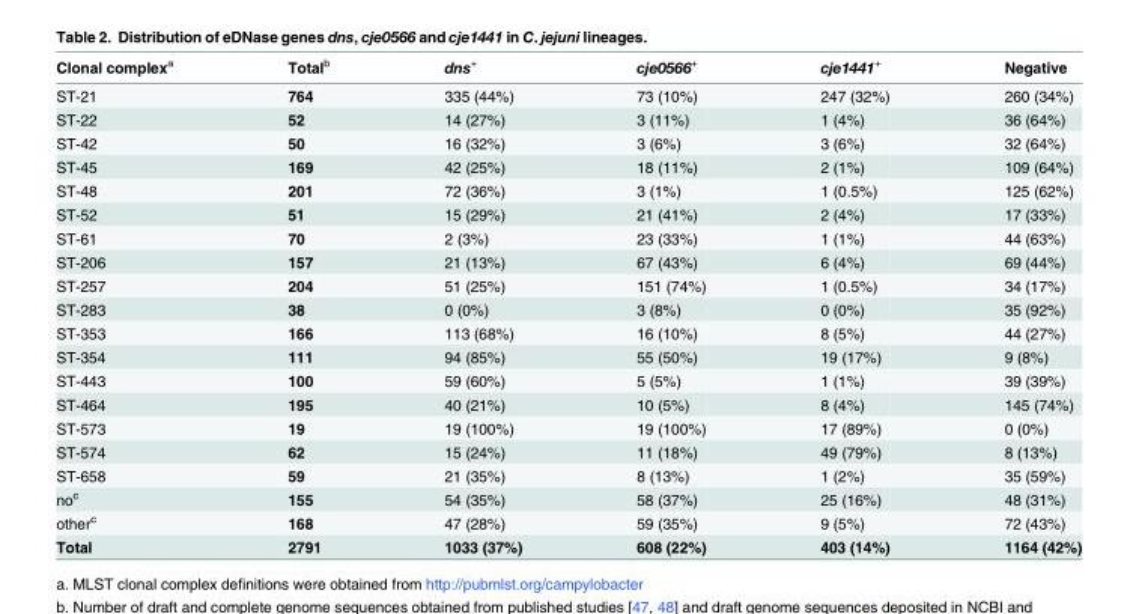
<table><thead><tr><td>Clonal complex<sup>a</sup></td><td>Total<sup>b</sup></td><td>dns<sup>+</sup></td><td>cje0566<sup>+</sup></td><td>cje1441<sup>+</sup></td><td>Negative</td></tr></thead><tbody><tr><td>ST-21</td><td>764</td><td>335 (44%)</td><td>73 (10%)</td><td>247 (32%)</td><td>260 (34%)</td></tr><tr><td>ST-22</td><td>52</td><td>14 (27%)</td><td>3 (11%)</td><td>1 (4%)</td><td>36 (64%)</td></tr><tr><td>ST-42</td><td>50</td><td>16 (32%)</td><td>3 (6%)</td><td>3 (6%)</td><td>32 (64%)</td></tr><tr><td>ST-45</td><td>169</td><td>42 (25%)</td><td>18 (11%)</td><td>2 (1%)</td><td>109 (64%)</td></tr><tr><td>ST-48</td><td>201</td><td>72 (36%)</td><td>3 (1%)</td><td>1 (0.5%)</td><td>125 (62%)</td></tr><tr><td>ST-52</td><td>51</td><td>15 (29%)</td><td>21 (41%)</td><td>2 (4%)</td><td>17 (33%)</td></tr><tr><td>ST-61</td><td>70</td><td>2 (3%)</td><td>23 (33%)</td><td>1 (1%)</td><td>44 (63%)</td></tr><tr><td>ST-206</td><td>157</td><td>21 (13%)</td><td>67 (43%)</td><td>6 (4%)</td><td>69 (44%)</td></tr><tr><td>ST-257</td><td>204</td><td>51 (25%)</td><td>151 (74%)</td><td>1 (0.5%)</td><td>34 (17%)</td></tr><tr><td>ST-283</td><td>38</td><td>0 (0%)</td><td>3 (8%)</td><td>0 (0%)</td><td>35 (92%)</td></tr><tr><td>ST-353</td><td>166</td><td>113 (68%)</td><td>16 (10%)</td><td>8 (5%)</td><td>44 (27%)</td></tr><tr><td>ST-354</td><td>111</td><td>94 (85%)</td><td>55 (50%)</td><td>19 (17%)</td><td>9 (8%)</td></tr><tr><td>ST-443</td><td>100</td><td>59 (60%)</td><td>5 (5%)</td><td>1 (1%)</td><td>39 (39%)</td></tr><tr><td>ST-464</td><td>195</td><td>40 (21%)</td><td>10 (5%)</td><td>8 (4%)</td><td>145 (74%)</td></tr><tr><td>ST-573</td><td>19</td><td>19 (100%)</td><td>19 (100%)</td><td>17 (89%)</td><td>0 (0%)</td></tr><tr><td>ST-574</td><td>62</td><td>15 (24%)</td><td>11 (18%)</td><td>49 (79%)</td><td>8 (13%)</td></tr><tr><td>ST-658</td><td>59</td><td>21 (35%)</td><td>8 (13%)</td><td>1 (2%)</td><td>35 (59%)</td></tr><tr><td>no<sup>c</sup></td><td>155</td><td>54 (35%)</td><td>58 (37%)</td><td>25 (16%)</td><td>48 (31%)</td></tr><tr><td>other<sup>c</sup></td><td>168</td><td>47 (28%)</td><td>59 (35%)</td><td>9 (5%)</td><td>72 (43%)</td></tr><tr><td>Total</td><td>2791</td><td>1033 (37%)</td><td>608 (22%)</td><td>403 (14%)</td><td>1164 (42%)</td></tr></tbody></table>